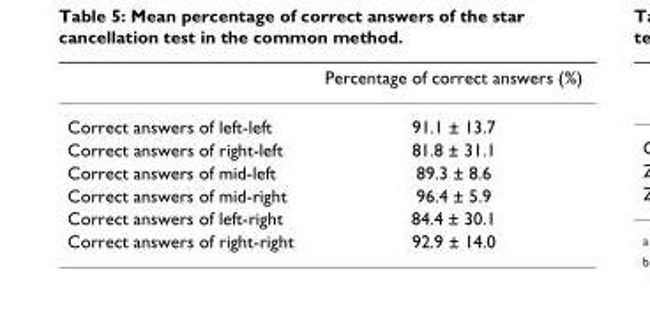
<table><thead><tr><td></td><td>Percentage of correct answers (%)</td></tr></thead><tbody><tr><td>Correct answers of left-left</td><td>91.1 ± 13.7</td></tr><tr><td>Correct answers of right-left</td><td>81.8 ± 31.1</td></tr><tr><td>Correct answers of mid-left</td><td>89.3 ± 8.6</td></tr><tr><td>Correct answers of mid-right</td><td>96.4 ± 5.9</td></tr><tr><td>Correct answers of left-right</td><td>84.4 ± 30.1</td></tr><tr><td>Correct answers of right-right</td><td>92.9 ± 14.0</td></tr></tbody></table>